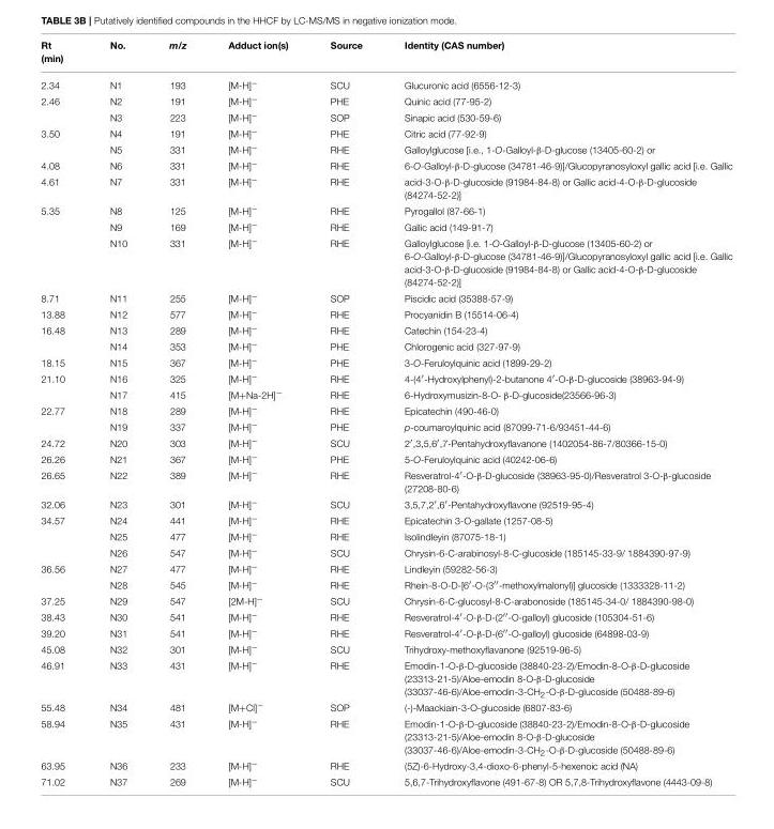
<table><thead><tr><td>Rt (min)</td><td>No.</td><td>m/z</td><td>Adduct ion(s)</td><td>Source</td><td>Identity (CAS number)</td></tr></thead><tbody><tr><td>2.34</td><td>N1</td><td>193</td><td>[M-H]<sup>−</sup></td><td>SCU</td><td>Glucuronic acid (6556-12-3)</td></tr><tr><td rowspan="2">2.46</td><td>N2</td><td>191</td><td>[M-H]<sup>−</sup></td><td>PHE</td><td>Quinic acid (77-95-2)</td></tr><tr><td>N3</td><td>223</td><td>[M-H]<sup>−</sup></td><td>SOP</td><td>Sinapic acid (530-59-6)</td></tr><tr><td rowspan="2">3.50</td><td>N4</td><td>191</td><td>[M-H]<sup>−</sup></td><td>PHE</td><td>Citric acid (77-92-9)</td></tr><tr><td>N5</td><td>331</td><td>[M-H]<sup>−</sup></td><td>RHE</td><td>Galloylglucose [i.e., 1-O-Galloyl-β-D-glucose (13405-60-2) or</td></tr><tr><td>4.08</td><td>N6</td><td>331</td><td>[M-H]<sup>−</sup></td><td>RHE</td><td>6-O-Galloyl-β-D-glucose (34781-46-9)]/Glucopyranosyloxyl gallic acid [i.e. Gallic</td></tr><tr><td>4.61</td><td>N7</td><td>331</td><td>[M-H]<sup>−</sup></td><td>RHE</td><td>acid-3-O-β-D-glucoside (91984-84-8) or Gallic acid-4-O-β-D-glucoside (84274-52-2)]</td></tr><tr><td rowspan="3">5.35</td><td>N8</td><td>125</td><td>[M-H]<sup>−</sup></td><td>RHE</td><td>Pyrogallol (87-66-1)</td></tr><tr><td>N9</td><td>169</td><td>[M-H]<sup>−</sup></td><td>RHE</td><td>Gallic acid (149-91-7)</td></tr><tr><td>N10</td><td>331</td><td>[M-H]<sup>−</sup></td><td>RHE</td><td>Galloylglucose [i.e. 1-O-Galloyl-β-D-glucose (13405-60-2) or 6-O-Galloyl-β-D-glucose (34781-46-9)]/Glucopyranosyloxyl gallic acid [i.e. Gallic acid-3-O-β-D-glucoside (91984-84-8) or Gallic acid-4-O-β-D-glucoside (84274-52-2)]</td></tr><tr><td>8.71</td><td>N11</td><td>255</td><td>[M-H]<sup>−</sup></td><td>SOP</td><td>Piscidic acid (35388-57-9)</td></tr><tr><td>13.88</td><td>N12</td><td>577</td><td>[M-H]<sup>−</sup></td><td>RHE</td><td>Procyanidin B (15514-06-4)</td></tr><tr><td rowspan="2">16.48</td><td>N13</td><td>289</td><td>[M-H]<sup>−</sup></td><td>RHE</td><td>Catechin (154-23-4)</td></tr><tr><td>N14</td><td>353</td><td>[M-H]<sup>−</sup></td><td>PHE</td><td>Chlorogenic acid (327-97-9)</td></tr><tr><td>18.15</td><td>N15</td><td>367</td><td>[M-H]<sup>−</sup></td><td>PHE</td><td>3-O-Feruloylquinic acid (1899-29-2)</td></tr><tr><td rowspan="2">21.10</td><td>N16</td><td>325</td><td>[M-H]<sup>−</sup></td><td>RHE</td><td>4-(4′-Hydroxylphenyl)-2-butanone 4′-O-β-D-glucoside (38963-94-9)</td></tr><tr><td>N17</td><td>415</td><td>[M+Na-2H]<sup>−</sup></td><td>RHE</td><td>6-Hydroxymusizin-8-O- β-D-glucoside(23566-96-3)</td></tr><tr><td rowspan="2">22.77</td><td>N18</td><td>289</td><td>[M-H]<sup>−</sup></td><td>RHE</td><td>Epicatechin (490-46-0)</td></tr><tr><td>N19</td><td>337</td><td>[M-H]<sup>−</sup></td><td>PHE</td><td>p-coumaroylquinic acid (87099-71-6/93451-44-6)</td></tr><tr><td>24.72</td><td>N20</td><td>303</td><td>[M-H]<sup>−</sup></td><td>SCU</td><td>2′,3,5,6′,7-Pentahydroxyflavanone (1402054-86-7/80366-15-0)</td></tr><tr><td>26.26</td><td>N21</td><td>367</td><td>[M-H]<sup>−</sup></td><td>PHE</td><td>5-O-Feruloylquinic acid (40242-06-6)</td></tr><tr><td>26.65</td><td>N22</td><td>389</td><td>[M-H]<sup>−</sup></td><td>RHE</td><td>Resveratrol-4′-O-β-D-glucoside (38963-95-0)/Resveratrol 3-O-β-glucoside (27208-80-6)</td></tr><tr><td>32.06</td><td>N23</td><td>301</td><td>[M-H]<sup>−</sup></td><td>SCU</td><td>3,5,7,2′,6′-Pentahydroxyflavone (92519-95-4)</td></tr><tr><td rowspan="3">34.57</td><td>N24</td><td>441</td><td>[M-H]<sup>−</sup></td><td>RHE</td><td>Epicatechin 3-O-gallate (1257-08-5)</td></tr><tr><td>N25</td><td>477</td><td>[M-H]<sup>−</sup></td><td>RHE</td><td>Isolindleyin (87075-18-1)</td></tr><tr><td>N26</td><td>547</td><td>[M-H]<sup>−</sup></td><td>SCU</td><td>Chrysin-6-C-arabinosyl-8-C-glucoside (185145-33-9/ 1884390-97-9)</td></tr><tr><td rowspan="2">36.56</td><td>N27</td><td>477</td><td>[M-H]<sup>−</sup></td><td>RHE</td><td>Lindleyin (59282-56-3)</td></tr><tr><td>N28</td><td>545</td><td>[M-H]<sup>−</sup></td><td>RHE</td><td>Rhein-8-O-D-[6′-O-(3′′-methoxylmalonyl)] glucoside (1333328-11-2)</td></tr><tr><td>37.25</td><td>N29</td><td>547</td><td>[2M-H]<sup>−</sup></td><td>SCU</td><td>Chrysin-6-C-glucosyl-8-C-arabonoside (185145-34-0/ 1884390-98-0)</td></tr><tr><td>38.43</td><td>N30</td><td>541</td><td>[M-H]<sup>−</sup></td><td>RHE</td><td>Resveratrol-4′-O-β-D-(2′′-O-galloyl) glucoside (105304-51-6)</td></tr><tr><td>39.20</td><td>N31</td><td>541</td><td>[M-H]<sup>−</sup></td><td>RHE</td><td>Resveratrol-4′-O-β-D-(6′′-O-galloyl) glucoside (64898-03-9)</td></tr><tr><td>45.08</td><td>N32</td><td>301</td><td>[M-H]<sup>−</sup></td><td>SCU</td><td>Trihydroxy-methoxyflavanone (92519-96-5)</td></tr><tr><td>46.91</td><td>N33</td><td>431</td><td>[M-H]<sup>−</sup></td><td>RHE</td><td>Emodin-1-O-β-D-glucoside (38840-23-2)/Emodin-8-O-β-D-glucoside (23313-21-5)/Aloe-emodin 8-O-β-D-glucoside (33037-46-6)/Aloe-emodin-3-CH<sub>2</sub>-O-β-D-glucoside (50488-89-6)</td></tr><tr><td>55.48</td><td>N34</td><td>481</td><td>[M+Cl]<sup>−</sup></td><td>SOP</td><td>(-)-Maackiain-3-O-glucoside (6807-83-6)</td></tr><tr><td>58.94</td><td>N35</td><td>431</td><td>[M-H]<sup>−</sup></td><td>RHE</td><td>Emodin-1-O-β-D-glucoside (38840-23-2)/Emodin-8-O-β-D-glucoside (23313-21-5)/Aloe-emodin 8-O-β-D-glucoside (33037-46-6)/Aloe-emodin-3-CH<sub>2</sub>-O-β-D-glucoside (50488-89-6)</td></tr><tr><td>63.95</td><td>N36</td><td>233</td><td>[M-H]<sup>−</sup></td><td>RHE</td><td>(5Z)-6-Hydroxy-3,4-dioxo-6-phenyl-5-hexenoic acid (NA)</td></tr><tr><td>71.02</td><td>N37</td><td>269</td><td>[M-H]<sup>−</sup></td><td>SCU</td><td>5,6,7-Trihydroxyflavone (491-67-8) OR 5,7,8-Trihydroxyflavone (4443-09-8)</td></tr></tbody></table>